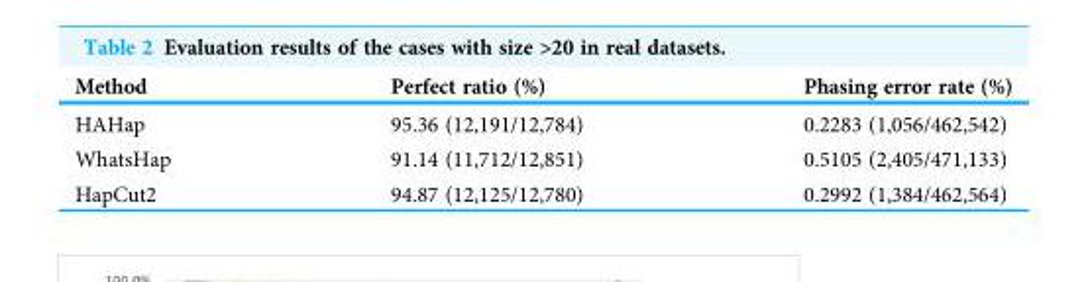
<table><thead><tr><td>Method</td><td>Perfect ratio (%)</td><td>Phasing error rate (%)</td></tr></thead><tbody><tr><td>HAHap</td><td>95.36 (12,191/12,784)</td><td>0.2283 (1,056/462,542)</td></tr><tr><td>WhatsHap</td><td>91.14 (11,712/12,851)</td><td>0.5105 (2,405/471,133)</td></tr><tr><td>HapCut2</td><td>94.87 (12,125/12,780)</td><td>0.2992 (1,384/462,564)</td></tr></tbody></table>